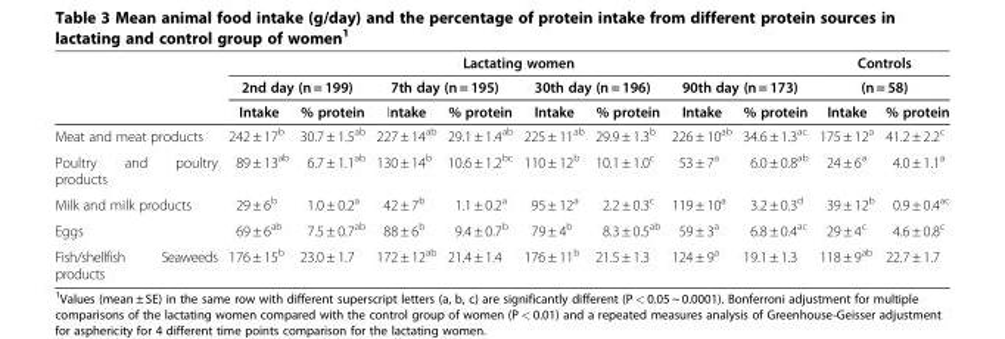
<table><thead><tr><td rowspan="3"></td><td colspan="8">Lactating women</td><td rowspan="2" colspan="2">Controls (n = 58)</td></tr><tr><td colspan="2">2nd day (n = 199)</td><td colspan="2">7th day (n = 195)</td><td colspan="2">30th day (n = 196)</td><td colspan="2">90th day (n = 173)</td></tr><tr><td>Intake</td><td>% protein</td><td>Intake</td><td>% protein</td><td>Intake</td><td>% protein</td><td>Intake</td><td>% protein</td><td>Intake</td><td>% protein</td></tr></thead><tbody><tr><td>Meat and meat products</td><td>242 ± 17<sup>b</sup></td><td>30.7 ± 1.5<sup>ab</sup></td><td>227 ± 14<sup>ab</sup></td><td>29.1 ± 1.4<sup>ab</sup></td><td>225 ± 11<sup>ab</sup></td><td>29.9 ± 1.3<sup>b</sup></td><td>226 ± 10<sup>ab</sup></td><td>34.6 ± 1.3<sup>ac</sup></td><td>175 ± 12<sup>a</sup></td><td>41.2 ± 2.2<sup>c</sup></td></tr><tr><td>Poultry and poultry products</td><td>89 ± 13<sup>ab</sup></td><td>6.7 ± 1.1<sup>ab</sup></td><td>130 ± 14<sup>b</sup></td><td>10.6 ± 1.2<sup>bc</sup></td><td>110 ± 12<sup>b</sup></td><td>10.1 ± 1.0<sup>c</sup></td><td>53 ± 7<sup>a</sup></td><td>6.0 ± 0.8<sup>ab</sup></td><td>24 ± 6<sup>a</sup></td><td>4.0 ± 1.1<sup>a</sup></td></tr><tr><td>Milk and milk products</td><td>29 ± 6<sup>b</sup></td><td>1.0 ± 0.2<sup>a</sup></td><td>42 ± 7<sup>b</sup></td><td>1.1 ± 0.2<sup>a</sup></td><td>95 ± 12<sup>a</sup></td><td>2.2 ± 0.3<sup>c</sup></td><td>119 ± 10<sup>a</sup></td><td>3.2 ± 0.3<sup>d</sup></td><td>39 ± 12<sup>b</sup></td><td>0.9 ± 0.4<sup>ac</sup></td></tr><tr><td>Eggs</td><td>69 ± 6<sup>ab</sup></td><td>7.5 ± 0.7<sup>ab</sup></td><td>88 ± 6<sup>b</sup></td><td>9.4 ± 0.7<sup>b</sup></td><td>79 ± 4<sup>b</sup></td><td>8.3 ± 0.5<sup>ab</sup></td><td>59 ± 3<sup>a</sup></td><td>6.8 ± 0.4<sup>ac</sup></td><td>29 ± 4<sup>c</sup></td><td>4.6 ± 0.8<sup>c</sup></td></tr><tr><td>Fish/shellfish Seaweeds products</td><td>176 ± 15<sup>b</sup></td><td>23.0 ± 1.7</td><td>172 ± 12<sup>ab</sup></td><td>21.4 ± 1.4</td><td>176 ± 11<sup>b</sup></td><td>21.5 ± 1.3</td><td>124 ± 9<sup>a</sup></td><td>19.1 ± 1.3</td><td>118 ± 9<sup>ab</sup></td><td>22.7 ± 1.7</td></tr></tbody></table>